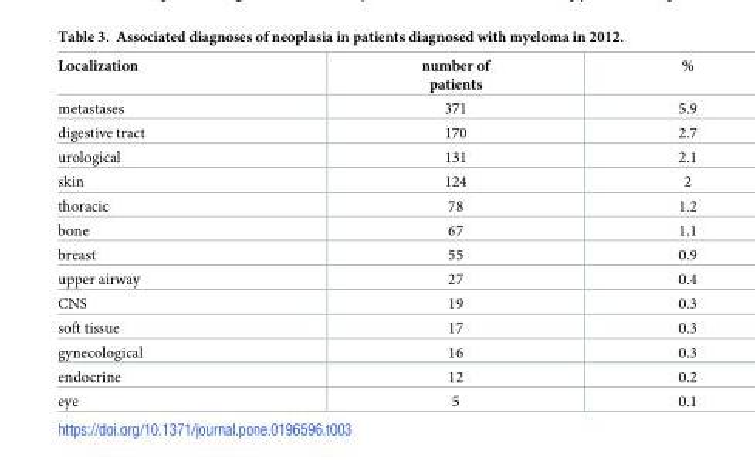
<table><thead><tr><td>Localization</td><td>number of patients</td><td>%</td></tr></thead><tbody><tr><td>metastases</td><td>371</td><td>5.9</td></tr><tr><td>digestive tract</td><td>170</td><td>2.7</td></tr><tr><td>urological</td><td>131</td><td>2.1</td></tr><tr><td>skin</td><td>124</td><td>2</td></tr><tr><td>thoracic</td><td>78</td><td>1.2</td></tr><tr><td>bone</td><td>67</td><td>1.1</td></tr><tr><td>breast</td><td>55</td><td>0.9</td></tr><tr><td>upper airway</td><td>27</td><td>0.4</td></tr><tr><td>CNS</td><td>19</td><td>0.3</td></tr><tr><td>soft tissue</td><td>17</td><td>0.3</td></tr><tr><td>gynecological</td><td>16</td><td>0.3</td></tr><tr><td>endocrine</td><td>12</td><td>0.2</td></tr><tr><td>eye</td><td>5</td><td>0.1</td></tr></tbody></table>